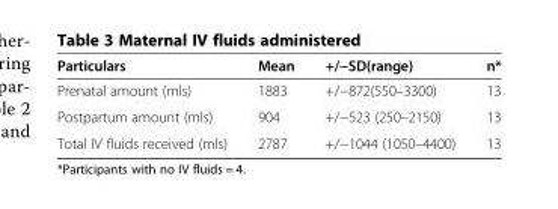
<table><thead><tr><td>Particulars</td><td>Mean</td><td>+/−SD(range)</td><td>n*</td></tr></thead><tbody><tr><td>Prenatal amount (mls)</td><td>1883</td><td>+/−872(550–3300)</td><td>13</td></tr><tr><td>Postpartum amount (mls)</td><td>904</td><td>+/−523 (250–2150)</td><td>13</td></tr><tr><td>Total IV fluids received (mls)</td><td>2787</td><td>+/−1044 (1050–4400)</td><td>13</td></tr></tbody></table>